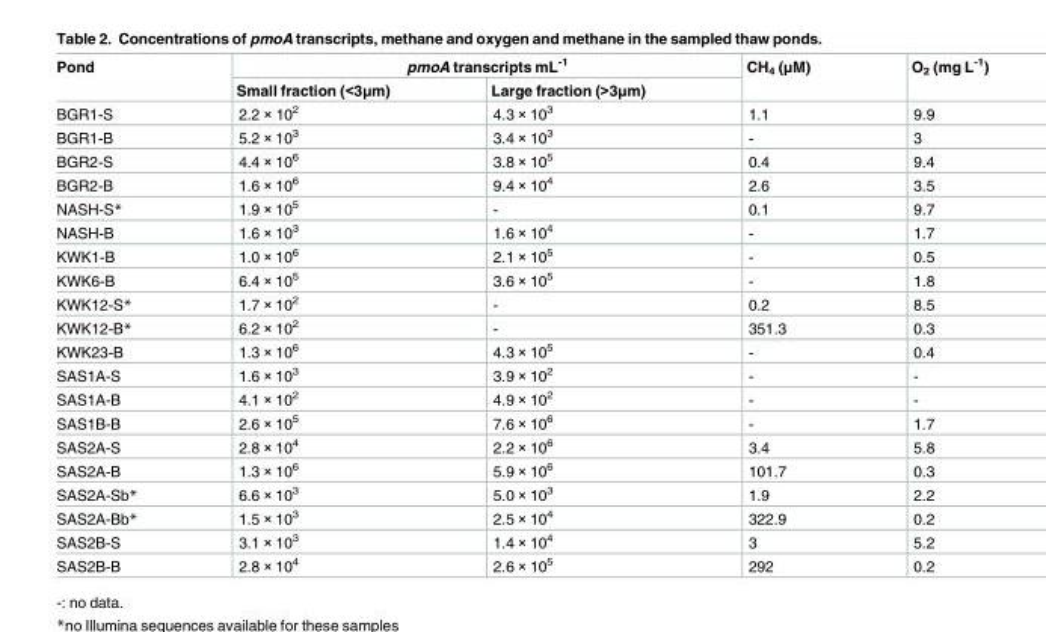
<table><thead><tr><td rowspan="2">Pond</td><td colspan="2">pmoA transcripts mL<sup>-1</sup></td><td rowspan="2">CH<sub>4</sub> (μM)</td><td rowspan="2">O<sub>2</sub> (mg L<sup>-1</sup>)</td></tr><tr><td>Small fraction (&lt;3μm)</td><td>Large fraction (&gt;3μm)</td></tr></thead><tbody><tr><td>BGR1-S</td><td>2.2 × 10<sup>2</sup></td><td>4.3 × 10<sup>3</sup></td><td>1.1</td><td>9.9</td></tr><tr><td>BGR1-B</td><td>5.2 × 10<sup>3</sup></td><td>3.4 × 10<sup>3</sup></td><td>-</td><td>3</td></tr><tr><td>BGR2-S</td><td>4.4 × 10<sup>6</sup></td><td>3.8 × 10<sup>5</sup></td><td>0.4</td><td>9.4</td></tr><tr><td>BGR2-B</td><td>1.6 × 10<sup>6</sup></td><td>9.4 × 10<sup>4</sup></td><td>2.6</td><td>3.5</td></tr><tr><td>NASH-S*</td><td>1.9 × 10<sup>5</sup></td><td>-</td><td>0.1</td><td>9.7</td></tr><tr><td>NASH-B</td><td>1.6 × 10<sup>3</sup></td><td>1.6 × 10<sup>4</sup></td><td>-</td><td>1.7</td></tr><tr><td>KWK1-B</td><td>1.0 × 10<sup>6</sup></td><td>2.1 × 10<sup>5</sup></td><td>-</td><td>0.5</td></tr><tr><td>KWK6-B</td><td>6.4 × 10<sup>5</sup></td><td>3.6 × 10<sup>5</sup></td><td>-</td><td>1.8</td></tr><tr><td>KWK12-S*</td><td>1.7 × 10<sup>2</sup></td><td>-</td><td>0.2</td><td>8.5</td></tr><tr><td>KWK12-B*</td><td>6.2 × 10<sup>2</sup></td><td>-</td><td>351.3</td><td>0.3</td></tr><tr><td>KWK23-B</td><td>1.3 × 10<sup>6</sup></td><td>4.3 × 10<sup>5</sup></td><td>-</td><td>0.4</td></tr><tr><td>SAS1A-S</td><td>1.6 × 10<sup>3</sup></td><td>3.9 × 10<sup>2</sup></td><td>-</td><td>-</td></tr><tr><td>SAS1A-B</td><td>4.1 × 10<sup>2</sup></td><td>4.9 × 10<sup>2</sup></td><td>-</td><td>-</td></tr><tr><td>SAS1B-B</td><td>2.6 × 10<sup>5</sup></td><td>7.6 × 10<sup>6</sup></td><td>-</td><td>1.7</td></tr><tr><td>SAS2A-S</td><td>2.8 × 10<sup>4</sup></td><td>2.2 × 10<sup>6</sup></td><td>3.4</td><td>5.8</td></tr><tr><td>SAS2A-B</td><td>1.3 × 10<sup>6</sup></td><td>5.9 × 10<sup>6</sup></td><td>101.7</td><td>0.3</td></tr><tr><td>SAS2A-Sb*</td><td>6.6 × 10<sup>3</sup></td><td>5.0 × 10<sup>3</sup></td><td>1.9</td><td>2.2</td></tr><tr><td>SAS2A-Bb*</td><td>1.5 × 10<sup>3</sup></td><td>2.5 × 10<sup>4</sup></td><td>322.9</td><td>0.2</td></tr><tr><td>SAS2B-S</td><td>3.1 × 10<sup>3</sup></td><td>1.4 × 10<sup>4</sup></td><td>3</td><td>5.2</td></tr><tr><td>SAS2B-B</td><td>2.8 × 10<sup>4</sup></td><td>2.6 × 10<sup>5</sup></td><td>292</td><td>0.2</td></tr></tbody></table>